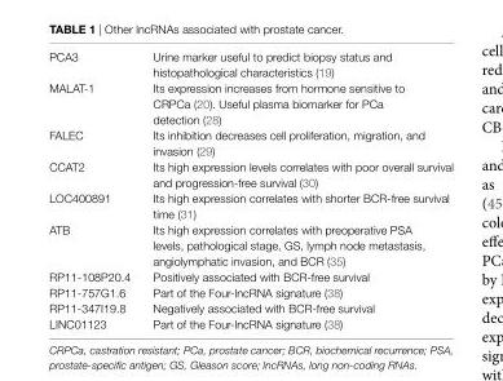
<table><tbody><tr><td>PCA3</td><td>Urine marker useful to predict biopsy status and histopathological characteristics (19)</td></tr><tr><td>MALAT-1</td><td>Its expression increases from hormone sensitive to CRPCa (20). Useful plasma biomarker for PCa detection (28)</td></tr><tr><td>FALEC</td><td>Its inhibition decreases cell proliferation, migration, and invasion (29)</td></tr><tr><td>CCAT2</td><td>Its high expression levels correlates with poor overall survival and progression-free survival (30)</td></tr><tr><td>LOC400891</td><td>Its high expression correlates with shorter BCR-free survival time (31)</td></tr><tr><td>ATB</td><td>Its high expression correlates with preoperative PSA levels, pathological stage, GS, lymph node metastasis, angiolymphatic invasion, and BCR (35)</td></tr><tr><td>RP11-108P20.4</td><td>Positively associated with BCR-free survival</td></tr><tr><td>RP11-757G1.6</td><td>Part of the Four-lncRNA signature (38)</td></tr><tr><td>RP11-347I19.8</td><td>Negatively associated with BCR-free survival</td></tr><tr><td>LINC01123</td><td>Part of the Four-lncRNA signature (38)</td></tr></tbody></table>